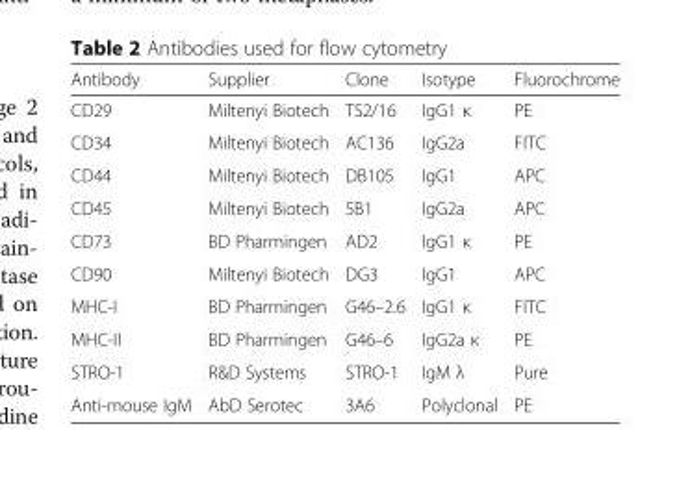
<table><thead><tr><td>Antibody</td><td>Supplier</td><td>Clone</td><td>Isotype</td><td>Fluorochrome</td></tr></thead><tbody><tr><td>CD29</td><td>Miltenyi Biotech</td><td>TS2/16</td><td>IgG1 κ</td><td>PE</td></tr><tr><td>CD34</td><td>Miltenyi Biotech</td><td>AC136</td><td>IgG2a</td><td>FITC</td></tr><tr><td>CD44</td><td>Miltenyi Biotech</td><td>DB105</td><td>IgG1</td><td>APC</td></tr><tr><td>CD45</td><td>Miltenyi Biotech</td><td>5B1</td><td>IgG2a</td><td>APC</td></tr><tr><td>CD73</td><td>BD Pharmingen</td><td>AD2</td><td>IgG1 κ</td><td>PE</td></tr><tr><td>CD90</td><td>Miltenyi Biotech</td><td>DG3</td><td>IgG1</td><td>APC</td></tr><tr><td>MHC-I</td><td>BD Pharmingen</td><td>G46–2.6</td><td>IgG1 κ</td><td>FITC</td></tr><tr><td>MHC-II</td><td>BD Pharmingen</td><td>G46–6</td><td>IgG2a κ</td><td>PE</td></tr><tr><td>STRO-1</td><td>R&amp;D Systems</td><td>STRO-1</td><td>IgM λ</td><td>Pure</td></tr><tr><td>Anti-mouse IgM</td><td>AbD Serotec</td><td>3A6</td><td>Polyclonal</td><td>PE</td></tr></tbody></table>